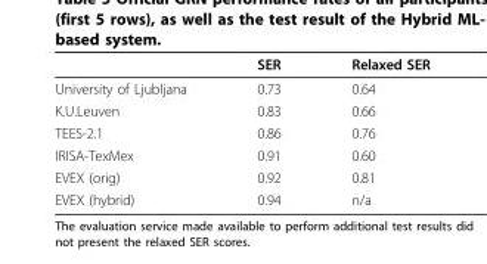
<table><thead><tr><td></td><td>SER</td><td>Relaxed SER</td></tr></thead><tbody><tr><td>University of Ljubljana</td><td>0.73</td><td>0.64</td></tr><tr><td>K.U.Leuven</td><td>0.83</td><td>0.66</td></tr><tr><td>TEES-2.1</td><td>0.86</td><td>0.76</td></tr><tr><td>IRISA-TexMex</td><td>0.91</td><td>0.60</td></tr><tr><td>EVEX (orig)</td><td>0.92</td><td>0.81</td></tr><tr><td>EVEX (hybrid)</td><td>0.94</td><td>n/a</td></tr></tbody></table>